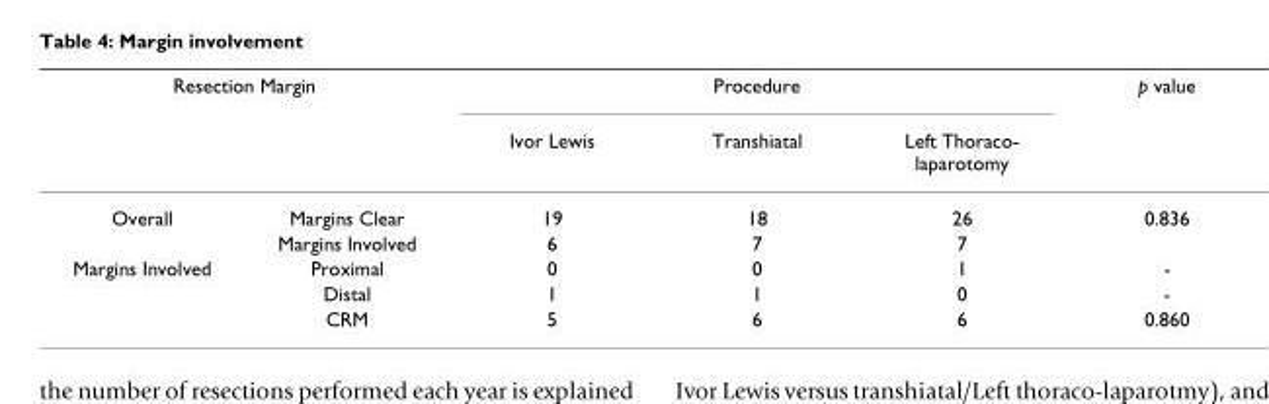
<table><thead><tr><td colspan="2">Resection Margin</td><td colspan="3">Procedure</td><td rowspan="2">p value</td></tr><tr><td></td><td></td><td>Ivor Lewis</td><td>Transhiatal</td><td>Left Thoraco- laparotomy</td></tr></thead><tbody><tr><td rowspan="2">Overall</td><td>Margins Clear</td><td>19</td><td>18</td><td>26</td><td>0.836</td></tr><tr><td>Margins Involved</td><td>6</td><td>7</td><td>7</td><td></td></tr><tr><td rowspan="3">Margins Involved</td><td>Proximal</td><td>0</td><td>0</td><td>1</td><td>-</td></tr><tr><td>Distal</td><td>1</td><td>1</td><td>0</td><td>-</td></tr><tr><td>CRM</td><td>5</td><td>6</td><td>6</td><td>0.860</td></tr></tbody></table>